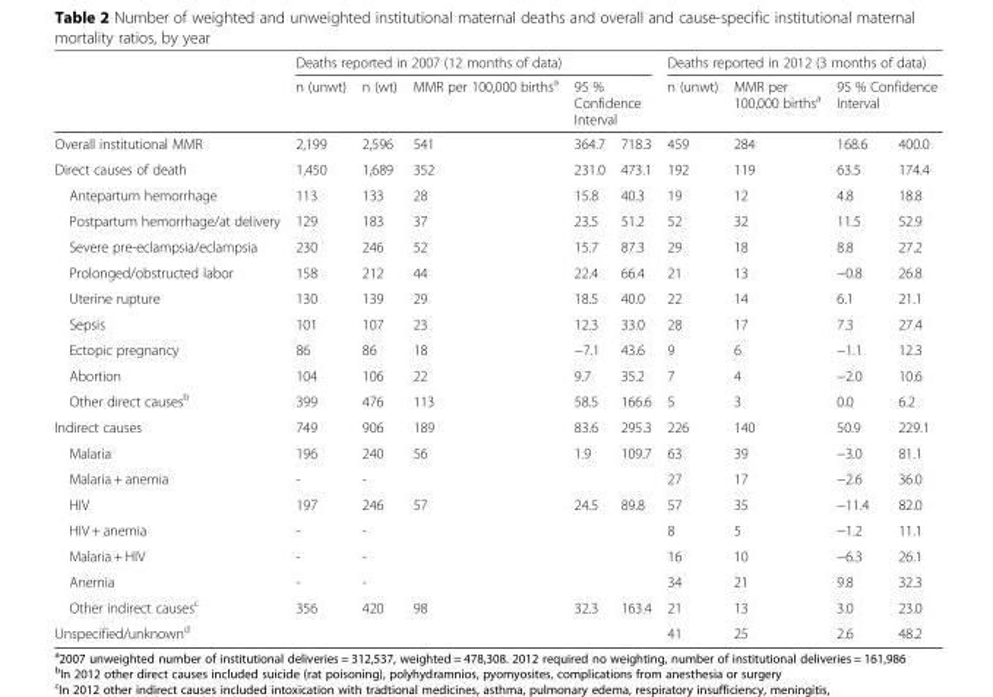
<table><thead><tr><td rowspan="3">Overall institutional MMR</td><td colspan="5">Deaths reported in 2007 (12 months of data)</td><td colspan="4">Deaths reported in 2012 (3 months of data)</td></tr><tr><td rowspan="2">n (unwt) 2,199</td><td rowspan="2">n (wt) 2,596</td><td rowspan="2">MMR per 100,000 births<sup>a</sup> 541</td><td colspan="2">95 % Confidence Interval</td><td rowspan="2">n (unwt) 459</td><td rowspan="2">MMR per 100,000 births<sup>a</sup> 284</td><td colspan="2">95 % Confidence Interval</td></tr><tr><td>364.7</td><td>718.3</td><td>168.6</td><td>400.0</td></tr></thead><tbody><tr><td>Direct causes of death</td><td>1,450</td><td>1,689</td><td>352</td><td>231.0</td><td>473.1</td><td>192</td><td>119</td><td>63.5</td><td>174.4</td></tr><tr><td>Antepartum hemorrhage</td><td>113</td><td>133</td><td>28</td><td>15.8</td><td>40.3</td><td>19</td><td>12</td><td>4.8</td><td>18.8</td></tr><tr><td>Postpartum hemorrhage/at delivery</td><td>129</td><td>183</td><td>37</td><td>23.5</td><td>51.2</td><td>52</td><td>32</td><td>11.5</td><td>52.9</td></tr><tr><td>Severe pre-eclampsia/eclampsia</td><td>230</td><td>246</td><td>52</td><td>15.7</td><td>87.3</td><td>29</td><td>18</td><td>8.8</td><td>27.2</td></tr><tr><td>Prolonged/obstructed labor</td><td>158</td><td>212</td><td>44</td><td>22.4</td><td>66.4</td><td>21</td><td>13</td><td>−0.8</td><td>26.8</td></tr><tr><td>Uterine rupture</td><td>130</td><td>139</td><td>29</td><td>18.5</td><td>40.0</td><td>22</td><td>14</td><td>6.1</td><td>21.1</td></tr><tr><td>Sepsis</td><td>101</td><td>107</td><td>23</td><td>12.3</td><td>33.0</td><td>28</td><td>17</td><td>7.3</td><td>27.4</td></tr><tr><td>Ectopic pregnancy</td><td>86</td><td>86</td><td>18</td><td>−7.1</td><td>43.6</td><td>9</td><td>6</td><td>−1.1</td><td>12.3</td></tr><tr><td>Abortion</td><td>104</td><td>106</td><td>22</td><td>9.7</td><td>35.2</td><td>7</td><td>4</td><td>−2.0</td><td>10.6</td></tr><tr><td>Other direct causes<sup>b</sup></td><td>399</td><td>476</td><td>113</td><td>58.5</td><td>166.6</td><td>5</td><td>3</td><td>0.0</td><td>6.2</td></tr><tr><td>Indirect causes</td><td>749</td><td>906</td><td>189</td><td>83.6</td><td>295.3</td><td>226</td><td>140</td><td>50.9</td><td>229.1</td></tr><tr><td>Malaria</td><td>196</td><td>240</td><td>56</td><td>1.9</td><td>109.7</td><td>63</td><td>39</td><td>−3.0</td><td>81.1</td></tr><tr><td>Malaria + anemia</td><td>-</td><td>-</td><td></td><td></td><td></td><td>27</td><td>17</td><td>−2.6</td><td>36.0</td></tr><tr><td>HIV</td><td>197</td><td>246</td><td>57</td><td>24.5</td><td>89.8</td><td>57</td><td>35</td><td>−11.4</td><td>82.0</td></tr><tr><td>HIV + anemia</td><td>-</td><td>-</td><td></td><td></td><td></td><td>8</td><td>5</td><td>−1.2</td><td>11.1</td></tr><tr><td>Malaria + HIV</td><td>-</td><td>-</td><td></td><td></td><td></td><td>16</td><td>10</td><td>−6.3</td><td>26.1</td></tr><tr><td>Anemia</td><td>-</td><td>-</td><td></td><td></td><td></td><td>34</td><td>21</td><td>9.8</td><td>32.3</td></tr><tr><td>Other indirect causes<sup>c</sup></td><td>356</td><td>420</td><td>98</td><td>32.3</td><td>163.4</td><td>21</td><td>13</td><td>3.0</td><td>23.0</td></tr><tr><td>Unspecified/unknown<sup>d</sup></td><td></td><td></td><td></td><td></td><td></td><td>41</td><td>25</td><td>2.6</td><td>48.2</td></tr></tbody></table>